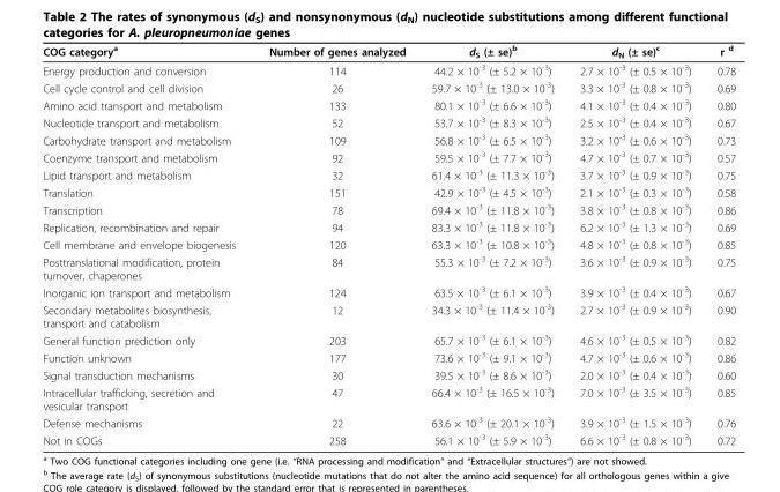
<table><thead><tr><td>COG category<sup>a</sup></td><td>Number of genes analyzed</td><td>d<sub>S</sub> (± se)<sup>b</sup></td><td>d<sub>N</sub> (± se)<sup>c</sup></td><td>r <sup>d</sup></td></tr></thead><tbody><tr><td>Energy production and conversion</td><td>114</td><td>44.2 × 10<sup>-3</sup> (± 5.2 × 10<sup>-3</sup>)</td><td>2.7 × 10<sup>-3</sup> (± 0.5 × 10<sup>-3</sup>)</td><td>0.78</td></tr><tr><td>Cell cycle control and cell division</td><td>26</td><td>59.7 × 10<sup>-3</sup> (± 13.0 × 10<sup>-3</sup>)</td><td>3.3 × 10<sup>-3</sup> (± 0.8 × 10<sup>-3</sup>)</td><td>0.69</td></tr><tr><td>Amino acid transport and metabolism</td><td>133</td><td>80.1 × 10<sup>-3</sup> (± 6.6 × 10<sup>-3</sup>)</td><td>4.1 × 10<sup>-3</sup> (± 0.4 × 10<sup>-3</sup>)</td><td>0.80</td></tr><tr><td>Nucleotide transport and metabolism</td><td>52</td><td>53.7 × 10<sup>-3</sup> (± 8.3 × 10<sup>-3</sup>)</td><td>2.5 × 10<sup>-3</sup> (± 0.4 × 10<sup>-3</sup>)</td><td>0.67</td></tr><tr><td>Carbohydrate transport and metabolism</td><td>109</td><td>56.8 × 10<sup>-3</sup> (± 6.5 × 10<sup>-3</sup>)</td><td>3.2 × 10<sup>-3</sup> (± 0.6 × 10<sup>-3</sup>)</td><td>0.73</td></tr><tr><td>Coenzyme transport and metabolism</td><td>92</td><td>59.5 × 10<sup>-3</sup> (± 7.7 × 10<sup>-3</sup>)</td><td>4.7 × 10<sup>-3</sup> (± 0.7 × 10<sup>-3</sup>)</td><td>0.57</td></tr><tr><td>Lipid transport and metabolism</td><td>32</td><td>61.4 × 10<sup>-3</sup> (± 11.3 × 10<sup>-3</sup>)</td><td>3.7 × 10<sup>-3</sup> (± 0.9 × 10<sup>-3</sup>)</td><td>0.75</td></tr><tr><td>Translation</td><td>151</td><td>42.9 × 10<sup>-3</sup> (± 4.5 × 10<sup>-3</sup>)</td><td>2.1 × 10<sup>-3</sup> (± 0.3 × 10<sup>-3</sup>)</td><td>0.58</td></tr><tr><td>Transcription</td><td>78</td><td>69.4 × 10<sup>-3</sup> (± 11.8 × 10<sup>-3</sup>)</td><td>3.8 × 10<sup>-3</sup> (± 0.8 × 10<sup>-3</sup>)</td><td>0.86</td></tr><tr><td>Replication, recombination and repair</td><td>94</td><td>83.3 × 10<sup>-3</sup> (± 11.8 × 10<sup>-3</sup>)</td><td>6.2 × 10<sup>-3</sup> (± 1.3 × 10<sup>-3</sup>)</td><td>0.69</td></tr><tr><td>Cell membrane and envelope biogenesis</td><td>120</td><td>63.3 × 10<sup>-3</sup> (± 10.8 × 10<sup>-3</sup>)</td><td>4.8 × 10<sup>-3</sup> (± 0.8 × 10<sup>-3</sup>)</td><td>0.85</td></tr><tr><td>Posttranslational modification, protein turnover, chaperones</td><td>84</td><td>55.3 × 10<sup>-3</sup> (± 7.2 × 10<sup>-3</sup>)</td><td>3.6 × 10<sup>-3</sup> (± 0.9 × 10<sup>-3</sup>)</td><td>0.75</td></tr><tr><td>Inorganic ion transport and metabolism</td><td>124</td><td>63.5 × 10<sup>-3</sup> (± 6.1 × 10<sup>-3</sup>)</td><td>3.9 × 10<sup>-3</sup> (± 0.4 × 10<sup>-3</sup>)</td><td>0.67</td></tr><tr><td>Secondary metabolites biosynthesis, transport and catabolism</td><td>12</td><td>34.3 × 10<sup>-3</sup> (± 11.4 × 10<sup>-3</sup>)</td><td>2.7 × 10<sup>-3</sup> (± 0.9 × 10<sup>-3</sup>)</td><td>0.90</td></tr><tr><td>General function prediction only</td><td>203</td><td>65.7 × 10<sup>-3</sup> (± 6.1 × 10<sup>-3</sup>)</td><td>4.6 × 10<sup>-3</sup> (± 0.5 × 10<sup>-3</sup>)</td><td>0.82</td></tr><tr><td>Function unknown</td><td>177</td><td>73.6 × 10<sup>-3</sup> (± 9.1 × 10<sup>-3</sup>)</td><td>4.7 × 10<sup>-3</sup> (± 0.6 × 10<sup>-3</sup>)</td><td>0.86</td></tr><tr><td>Signal transduction mechanisms</td><td>30</td><td>39.5 × 10<sup>-3</sup> (± 8.6 × 10<sup>-3</sup>)</td><td>2.0 × 10<sup>-3</sup> (± 0.4 × 10<sup>-3</sup>)</td><td>0.60</td></tr><tr><td>Intracellular trafficking, secretion and vesicular transport</td><td>47</td><td>66.4 × 10<sup>-3</sup> (± 16.5 × 10<sup>-3</sup>)</td><td>7.0 × 10<sup>-3</sup> (± 3.5 × 10<sup>-3</sup>)</td><td>0.85</td></tr><tr><td>Defense mechanisms</td><td>22</td><td>63.6 × 10<sup>-3</sup> (± 20.1 × 10<sup>-3</sup>)</td><td>3.9 × 10<sup>-3</sup> (± 1.5 × 10<sup>-3</sup>)</td><td>0.76</td></tr><tr><td>Not in COGs</td><td>258</td><td>56.1 × 10<sup>-3</sup> (± 5.9 × 10<sup>-3</sup>)</td><td>6.6 × 10<sup>-3</sup> (± 0.8 × 10<sup>-3</sup>)</td><td>0.72</td></tr></tbody></table>